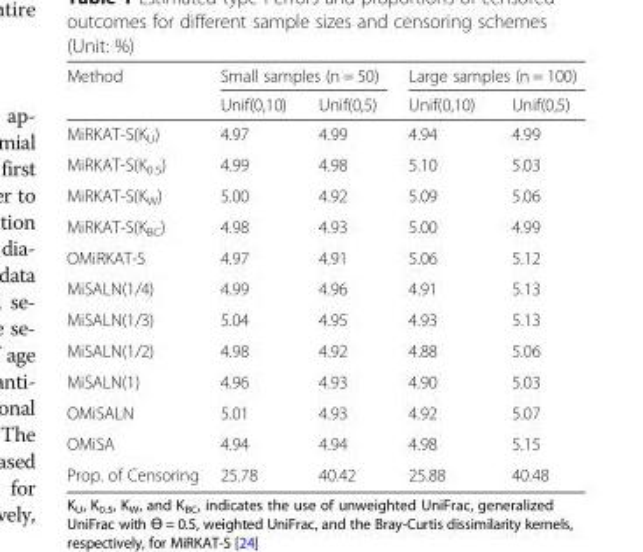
<table><thead><tr><td rowspan="2">Method</td><td colspan="2">Small samples (n = 50)</td><td colspan="2">Large samples (n = 100)</td></tr><tr><td>Unif(0,10)</td><td>Unif(0,5)</td><td>Unif(0,10)</td><td>Unif(0,5)</td></tr></thead><tbody><tr><td>MiRKAT-S(K<sub>U</sub>)</td><td>4.97</td><td>4.99</td><td>4.94</td><td>4.99</td></tr><tr><td>MiRKAT-S(K<sub>0.5</sub>)</td><td>4.99</td><td>4.98</td><td>5.10</td><td>5.03</td></tr><tr><td>MiRKAT-S(K<sub>W</sub>)</td><td>5.00</td><td>4.92</td><td>5.09</td><td>5.06</td></tr><tr><td>MiRKAT-S(K<sub>BC</sub>)</td><td>4.98</td><td>4.93</td><td>5.00</td><td>4.99</td></tr><tr><td>OMiRKAT-S</td><td>4.97</td><td>4.91</td><td>5.06</td><td>5.12</td></tr><tr><td>MiSALN(1/4)</td><td>4.99</td><td>4.96</td><td>4.91</td><td>5.13</td></tr><tr><td>MiSALN(1/3)</td><td>5.04</td><td>4.95</td><td>4.93</td><td>5.13</td></tr><tr><td>MiSALN(1/2)</td><td>4.98</td><td>4.92</td><td>4.88</td><td>5.06</td></tr><tr><td>MiSALN(1)</td><td>4.96</td><td>4.93</td><td>4.90</td><td>5.03</td></tr><tr><td>OMiSALN</td><td>5.01</td><td>4.93</td><td>4.92</td><td>5.07</td></tr><tr><td>OMiSA</td><td>4.94</td><td>4.94</td><td>4.98</td><td>5.15</td></tr><tr><td>Prop. of Censoring</td><td>25.78</td><td>40.42</td><td>25.88</td><td>40.48</td></tr></tbody></table>